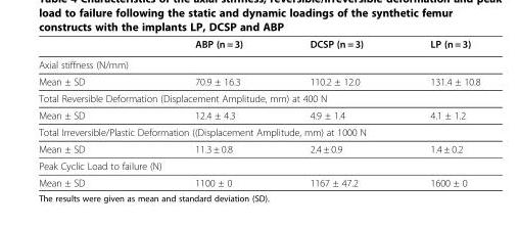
<table><thead><tr><td></td><td>ABP (n = 3)</td><td>DCSP (n = 3)</td><td>LP (n = 3)</td></tr></thead><tbody><tr><td colspan="4">Axial stiffness (N/mm)</td></tr><tr><td>Mean ± SD</td><td>70.9 ± 16.3</td><td>110.2 ± 12.0</td><td>131.4 ± 10.8</td></tr><tr><td colspan="4">Total Reversible Deformation (Displacement Amplitude, mm) at 400 N</td></tr><tr><td>Mean ± SD</td><td>12.4 ± 4.3</td><td>4.9 ± 1.4</td><td>4.1 ± 1.2</td></tr><tr><td colspan="4">Total Irreversible/Plastic Deformation ((Displacement Amplitude, mm) at 1000 N</td></tr><tr><td>Mean ± SD</td><td>11.3 ± 0.8</td><td>2.4 ± 0.9</td><td>1.4 ± 0.2</td></tr><tr><td colspan="4">Peak Cyclic Load to failure (N)</td></tr><tr><td>Mean ± SD</td><td>1100 ± 0</td><td>1167 ± 47.2</td><td>1600 ± 0</td></tr></tbody></table>